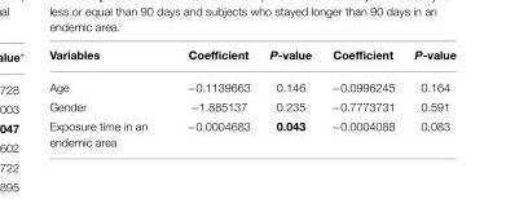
<table><thead><tr><td>Variables</td><td>Coefficient</td><td>P-value</td><td>Coefficient</td><td>P-value</td></tr></thead><tbody><tr><td>Age</td><td>−0.1139663</td><td>0.146</td><td>−0.0996245</td><td>0.164</td></tr><tr><td>Gender</td><td>−1.885137</td><td>0.235</td><td>−0.7773731</td><td>0.591</td></tr><tr><td>Exposure time in an endemic area</td><td>−0.0004683</td><td>0.043</td><td>−0.0004088</td><td>0.083</td></tr></tbody></table>